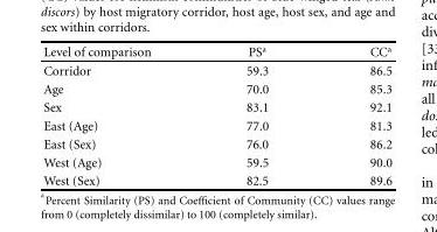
<table><thead><tr><td>Level of comparison</td><td>PS<sup>a</sup></td><td>CC<sup>a</sup></td></tr></thead><tbody><tr><td>Corridor</td><td>59.3</td><td>86.5</td></tr><tr><td>Age</td><td>70.0</td><td>85.3</td></tr><tr><td>Sex</td><td>83.1</td><td>92.1</td></tr><tr><td>East (Age)</td><td>77.0</td><td>81.3</td></tr><tr><td>East (Sex)</td><td>76.0</td><td>86.2</td></tr><tr><td>West (Age)</td><td>59.5</td><td>90.0</td></tr><tr><td>West (Sex)</td><td>82.5</td><td>89.6</td></tr></tbody></table>